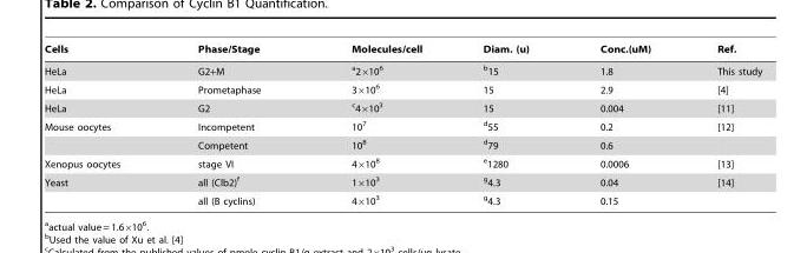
<table><thead><tr><td>Cells</td><td>Phase/Stage</td><td>Molecules/cell</td><td>Diam. (u)</td><td>Conc.(uM)</td><td>Ref.</td></tr></thead><tbody><tr><td>HeLa</td><td>G2+M</td><td>a2×10<sup>6</sup></td><td>b15</td><td>1.8</td><td>This study</td></tr><tr><td>HeLa</td><td>Prometaphase</td><td>3×10<sup>6</sup></td><td>15</td><td>2.9</td><td>[4]</td></tr><tr><td>HeLa</td><td>G2</td><td>c4×10<sup>3</sup></td><td>15</td><td>0.004</td><td>[11]</td></tr><tr><td rowspan="2">Mouse oocytes</td><td>Incompetent</td><td>10<sup>7</sup></td><td>d55</td><td>0.2</td><td>[12]</td></tr><tr><td>Competent</td><td>10<sup>8</sup></td><td>d79</td><td>0.6</td><td></td></tr><tr><td>Xenopus oocytes</td><td>stage VI</td><td>4×10<sup>8</sup></td><td>e1280</td><td>0.0006</td><td>[13]</td></tr><tr><td rowspan="2">Yeast</td><td>all (Clb2)<sup>f</sup></td><td>1×10<sup>3</sup></td><td>g4.3</td><td>0.04</td><td>[14]</td></tr><tr><td>all (B cyclins)</td><td>4×10<sup>3</sup></td><td>g4.3</td><td>0.15</td><td></td></tr></tbody></table>